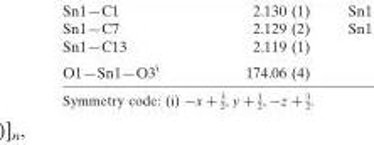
<table><tbody><tr><td>O1—Sn1—O3<sup>i</sup></td><td>174.06 (4)</td></tr></tbody></table>